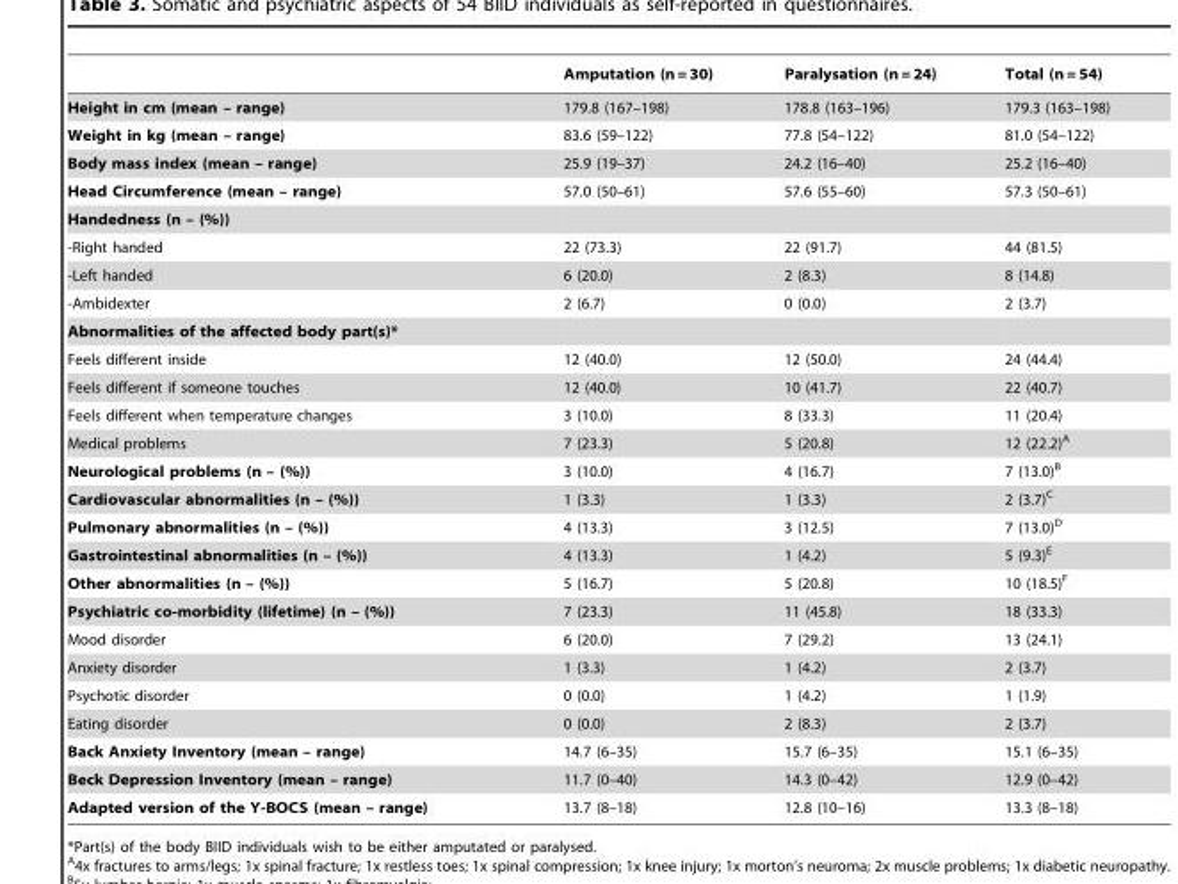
<table><thead><tr><td></td><td>Amputation (n = 30)</td><td>Paralysation (n = 24)</td><td>Total (n = 54)</td></tr></thead><tbody><tr><td>Height in cm (mean – range)</td><td>179.8 (167–198)</td><td>178.8 (163–196)</td><td>179.3 (163–198)</td></tr><tr><td>Weight in kg (mean – range)</td><td>83.6 (59–122)</td><td>77.8 (54–122)</td><td>81.0 (54–122)</td></tr><tr><td>Body mass index (mean – range)</td><td>25.9 (19–37)</td><td>24.2 (16–40)</td><td>25.2 (16–40)</td></tr><tr><td>Head Circumference (mean – range)</td><td>57.0 (50–61)</td><td>57.6 (55–60)</td><td>57.3 (50–61)</td></tr><tr><td colspan="4">Handedness (n – (%))</td></tr><tr><td>-Right handed</td><td>22 (73.3)</td><td>22 (91.7)</td><td>44 (81.5)</td></tr><tr><td>-Left handed</td><td>6 (20.0)</td><td>2 (8.3)</td><td>8 (14.8)</td></tr><tr><td>-Ambidexter</td><td>2 (6.7)</td><td>0 (0.0)</td><td>2 (3.7)</td></tr><tr><td colspan="4">Abnormalities of the affected body part(s)*</td></tr><tr><td>Feels different inside</td><td>12 (40.0)</td><td>12 (50.0)</td><td>24 (44.4)</td></tr><tr><td>Feels different if someone touches</td><td>12 (40.0)</td><td>10 (41.7)</td><td>22 (40.7)</td></tr><tr><td>Feels different when temperature changes</td><td>3 (10.0)</td><td>8 (33.3)</td><td>11 (20.4)</td></tr><tr><td>Medical problems</td><td>7 (23.3)</td><td>5 (20.8)</td><td>12 (22.2)<sup>A</sup></td></tr><tr><td>Neurological problems (n – (%))</td><td>3 (10.0)</td><td>4 (16.7)</td><td>7 (13.0)<sup>B</sup></td></tr><tr><td>Cardiovascular abnormalities (n – (%))</td><td>1 (3.3)</td><td>1 (3.3)</td><td>2 (3.7)<sup>C</sup></td></tr><tr><td>Pulmonary abnormalities (n – (%))</td><td>4 (13.3)</td><td>3 (12.5)</td><td>7 (13.0)<sup>D</sup></td></tr><tr><td>Gastrointestinal abnormalities (n – (%))</td><td>4 (13.3)</td><td>1 (4.2)</td><td>5 (9.3)<sup>E</sup></td></tr><tr><td>Other abnormalities (n – (%))</td><td>5 (16.7)</td><td>5 (20.8)</td><td>10 (18.5)<sup>F</sup></td></tr><tr><td>Psychiatric co-morbidity (lifetime) (n – (%))</td><td>7 (23.3)</td><td>11 (45.8)</td><td>18 (33.3)</td></tr><tr><td>Mood disorder</td><td>6 (20.0)</td><td>7 (29.2)</td><td>13 (24.1)</td></tr><tr><td>Anxiety disorder</td><td>1 (3.3)</td><td>1 (4.2)</td><td>2 (3.7)</td></tr><tr><td>Psychotic disorder</td><td>0 (0.0)</td><td>1 (4.2)</td><td>1 (1.9)</td></tr><tr><td>Eating disorder</td><td>0 (0.0)</td><td>2 (8.3)</td><td>2 (3.7)</td></tr><tr><td>Back Anxiety Inventory (mean – range)</td><td>14.7 (6–35)</td><td>15.7 (6–35)</td><td>15.1 (6–35)</td></tr><tr><td>Beck Depression Inventory (mean – range)</td><td>11.7 (0–40)</td><td>14.3 (0–42)</td><td>12.9 (0–42)</td></tr><tr><td>Adapted version of the Y-BOCS (mean – range)</td><td>13.7 (8–18)</td><td>12.8 (10–16)</td><td>13.3 (8–18)</td></tr></tbody></table>